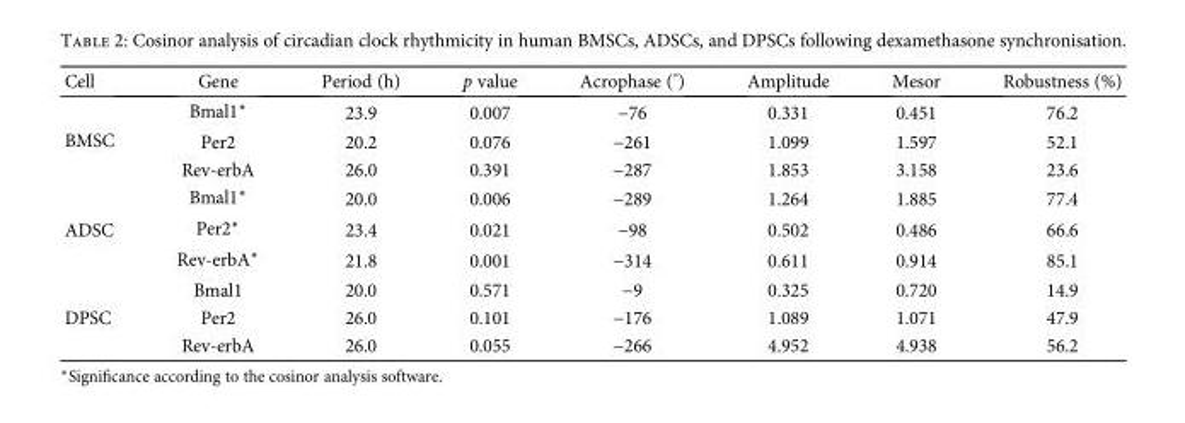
<table><thead><tr><td>Cell</td><td>Gene</td><td>Period (h)</td><td>p value</td><td>Acrophase (°)</td><td>Amplitude</td><td>Mesor</td><td>Robustness (%)</td></tr></thead><tbody><tr><td rowspan="3">BMSC</td><td>Bmal1∗</td><td>23.9</td><td>0.007</td><td>−76</td><td>0.331</td><td>0.451</td><td>76.2</td></tr><tr><td>Per2</td><td>20.2</td><td>0.076</td><td>−261</td><td>1.099</td><td>1.597</td><td>52.1</td></tr><tr><td>Rev-erbA</td><td>26.0</td><td>0.391</td><td>−287</td><td>1.853</td><td>3.158</td><td>23.6</td></tr><tr><td rowspan="3">ADSC</td><td>Bmal1∗</td><td>20.0</td><td>0.006</td><td>−289</td><td>1.264</td><td>1.885</td><td>77.4</td></tr><tr><td>Per2∗</td><td>23.4</td><td>0.021</td><td>−98</td><td>0.502</td><td>0.486</td><td>66.6</td></tr><tr><td>Rev-erbA∗</td><td>21.8</td><td>0.001</td><td>−314</td><td>0.611</td><td>0.914</td><td>85.1</td></tr><tr><td rowspan="3">DPSC</td><td>Bmal1</td><td>20.0</td><td>0.571</td><td>−9</td><td>0.325</td><td>0.720</td><td>14.9</td></tr><tr><td>Per2</td><td>26.0</td><td>0.101</td><td>−176</td><td>1.089</td><td>1.071</td><td>47.9</td></tr><tr><td>Rev-erbA</td><td>26.0</td><td>0.055</td><td>−266</td><td>4.952</td><td>4.938</td><td>56.2</td></tr></tbody></table>